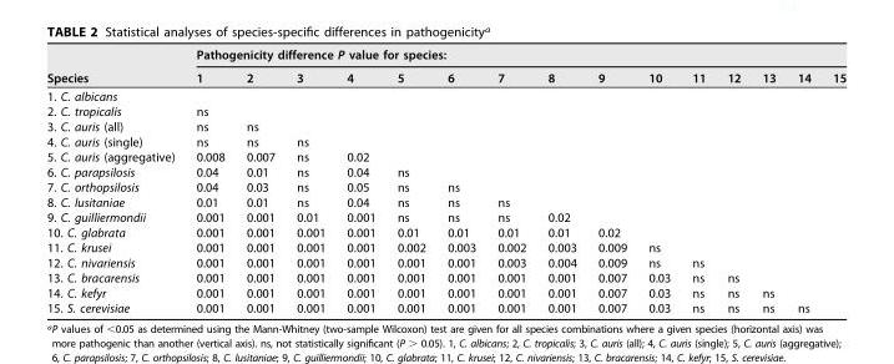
<table><thead><tr><td rowspan="2">Species</td><td colspan="15">Pathogenicity difference P value for species:</td></tr><tr><td>1</td><td>2</td><td>3</td><td>4</td><td>5</td><td>6</td><td>7</td><td>8</td><td>9</td><td>10</td><td>11</td><td>12</td><td>13</td><td>14</td><td>15</td></tr></thead><tbody><tr><td colspan="16">1. C. albicans</td></tr><tr><td>2. C. tropicalis</td><td>ns</td><td></td><td></td><td></td><td></td><td></td><td></td><td></td><td></td><td></td><td></td><td></td><td></td><td></td><td></td></tr><tr><td>3. C. auris (all)</td><td>ns</td><td>ns</td><td></td><td></td><td></td><td></td><td></td><td></td><td></td><td></td><td></td><td></td><td></td><td></td><td></td></tr><tr><td>4. C. auris (single)</td><td>ns</td><td>ns</td><td>ns</td><td></td><td></td><td></td><td></td><td></td><td></td><td></td><td></td><td></td><td></td><td></td><td></td></tr><tr><td>5. C. auris (aggregative)</td><td>0.008</td><td>0.007</td><td>ns</td><td>0.02</td><td></td><td></td><td></td><td></td><td></td><td></td><td></td><td></td><td></td><td></td><td></td></tr><tr><td>6. C. parapsilosis</td><td>0.04</td><td>0.01</td><td>ns</td><td>0.04</td><td>ns</td><td></td><td></td><td></td><td></td><td></td><td></td><td></td><td></td><td></td><td></td></tr><tr><td>7. C. orthopsilosis</td><td>0.04</td><td>0.03</td><td>ns</td><td>0.05</td><td>ns</td><td>ns</td><td></td><td></td><td></td><td></td><td></td><td></td><td></td><td></td><td></td></tr><tr><td>8. C. lusitaniae</td><td>0.01</td><td>0.01</td><td>ns</td><td>0.04</td><td>ns</td><td>ns</td><td>ns</td><td></td><td></td><td></td><td></td><td></td><td></td><td></td><td></td></tr><tr><td>9. C. guilliermondii</td><td>0.001</td><td>0.001</td><td>0.01</td><td>0.001</td><td>ns</td><td>ns</td><td>ns</td><td>0.02</td><td></td><td></td><td></td><td></td><td></td><td></td><td></td></tr><tr><td>10. C. glabrata</td><td>0.001</td><td>0.001</td><td>0.001</td><td>0.001</td><td>0.01</td><td>0.01</td><td>0.01</td><td>0.01</td><td>0.02</td><td></td><td></td><td></td><td></td><td></td><td></td></tr><tr><td>11. C. krusei</td><td>0.001</td><td>0.001</td><td>0.001</td><td>0.001</td><td>0.002</td><td>0.003</td><td>0.002</td><td>0.003</td><td>0.009</td><td>ns</td><td></td><td></td><td></td><td></td><td></td></tr><tr><td>12. C. nivariensis</td><td>0.001</td><td>0.001</td><td>0.001</td><td>0.001</td><td>0.001</td><td>0.001</td><td>0.003</td><td>0.004</td><td>0.009</td><td>ns</td><td>ns</td><td></td><td></td><td></td><td></td></tr><tr><td>13. C. bracarensis</td><td>0.001</td><td>0.001</td><td>0.001</td><td>0.001</td><td>0.001</td><td>0.001</td><td>0.001</td><td>0.001</td><td>0.007</td><td>0.03</td><td>ns</td><td>ns</td><td></td><td></td><td></td></tr><tr><td>14. C. kefyr</td><td>0.001</td><td>0.001</td><td>0.001</td><td>0.001</td><td>0.001</td><td>0.001</td><td>0.001</td><td>0.001</td><td>0.007</td><td>0.03</td><td>ns</td><td>ns</td><td>ns</td><td></td><td></td></tr><tr><td>15. S. cerevisiae</td><td>0.001</td><td>0.001</td><td>0.001</td><td>0.001</td><td>0.001</td><td>0.001</td><td>0.001</td><td>0.001</td><td>0.007</td><td>0.03</td><td>ns</td><td>ns</td><td>ns</td><td>ns</td><td></td></tr></tbody></table>